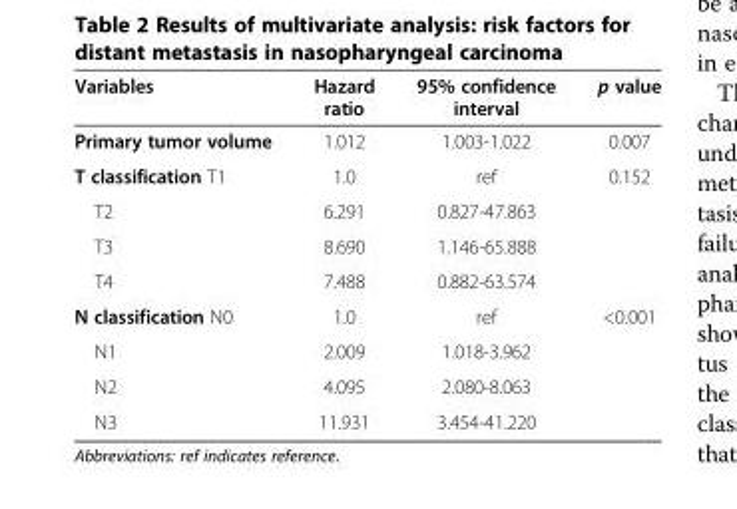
<table><thead><tr><td>Variables</td><td>Hazard ratio</td><td>95% confidence interval</td><td>p value</td></tr></thead><tbody><tr><td>Primary tumor volume</td><td>1.012</td><td>1.003-1.022</td><td>0.007</td></tr><tr><td>T classification T1</td><td>1.0</td><td>ref</td><td>0.152</td></tr><tr><td>T2</td><td>6.291</td><td>0.827-47.863</td><td></td></tr><tr><td>T3</td><td>8.690</td><td>1.146-65.888</td><td></td></tr><tr><td>T4</td><td>7.488</td><td>0.882-63.574</td><td></td></tr><tr><td>N classification N0</td><td>1.0</td><td>ref</td><td>&lt;0.001</td></tr><tr><td>N1</td><td>2.009</td><td>1.018-3.962</td><td></td></tr><tr><td>N2</td><td>4.095</td><td>2.080-8.063</td><td></td></tr><tr><td>N3</td><td>11.931</td><td>3.454-41.220</td><td></td></tr></tbody></table>